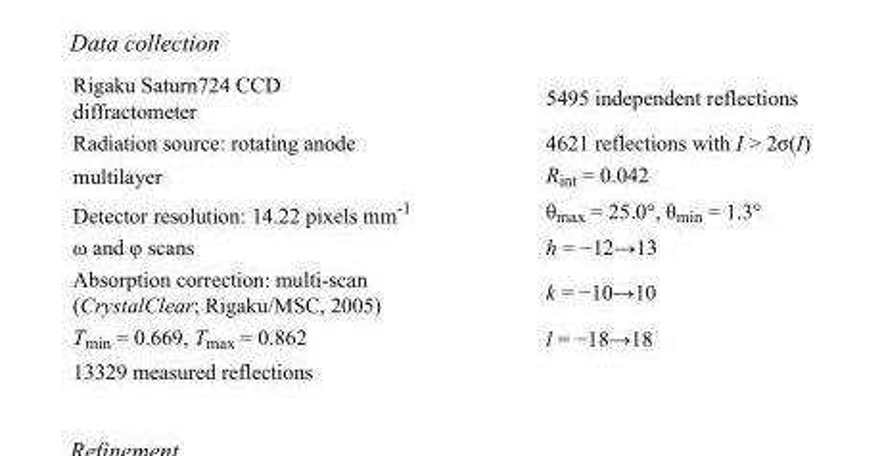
<table><tbody><tr><td>Rigaku Saturn724 CCD diffractometer</td><td>5495 independent reflections</td></tr><tr><td>Radiation source: rotating anode</td><td>4621 reflections with I &gt; 2σ(I)</td></tr><tr><td>multilayer</td><td>R<sub>int</sub> = 0.042</td></tr><tr><td>Detector resolution: 14.22 pixels mm<sup>-1</sup></td><td>θ<sub>max</sub> = 25.0°, θ<sub>min</sub> = 1.3°</td></tr><tr><td>ω and φ scans</td><td>h = −12→13</td></tr><tr><td>Absorption correction: multi-scan (CrystalClear; Rigaku/MSC, 2005)</td><td>k = −10→10</td></tr><tr><td>T<sub>min</sub> = 0.669, T<sub>max</sub> = 0.862</td><td>l = −18→18</td></tr><tr><td>13329 measured reflections</td><td></td></tr></tbody></table>